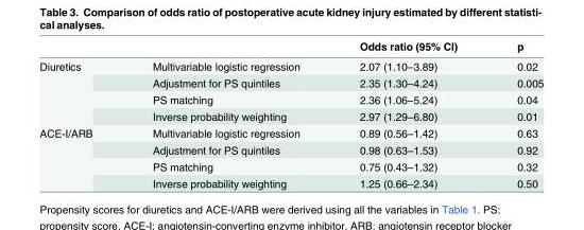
<table><thead><tr><td></td><td></td><td>Odds ratio (95% CI)</td><td>p</td></tr></thead><tbody><tr><td rowspan="4">Diuretics</td><td>Multivariable logistic regression</td><td>2.07 (1.10–3.89)</td><td>0.02</td></tr><tr><td>Adjustment for PS quintiles</td><td>2.35 (1.30–4.24)</td><td>0.005</td></tr><tr><td>PS matching</td><td>2.36 (1.06–5.24)</td><td>0.04</td></tr><tr><td>Inverse probability weighting</td><td>2.97 (1.29–6.80)</td><td>0.01</td></tr><tr><td rowspan="4">ACE-I/ARB</td><td>Multivariable logistic regression</td><td>0.89 (0.56–1.42)</td><td>0.63</td></tr><tr><td>Adjustment for PS quintiles</td><td>0.98 (0.63–1.53)</td><td>0.92</td></tr><tr><td>PS matching</td><td>0.75 (0.43–1.32)</td><td>0.32</td></tr><tr><td>Inverse probability weighting</td><td>1.25 (0.66–2.34)</td><td>0.50</td></tr></tbody></table>